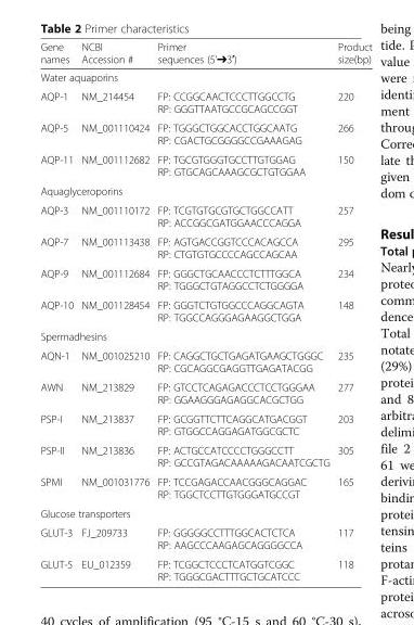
<table><thead><tr><td>Gene names</td><td>NCBI Accession #</td><td>Primer sequences (5’➔3′)</td><td>Product size(bp)</td></tr></thead><tbody><tr><td colspan="4">Water aquaporins</td></tr><tr><td>AQP-1</td><td>NM_214454</td><td>FP: CCGGCAACTCCCTTGGCCTG RP: GGGTTAATGCCGCAGCCGGT</td><td>220</td></tr><tr><td>AQP-5</td><td>NM_001110424</td><td>FP: TGGGCTGGCACCTGGCAATG RP: CGACTGCGGGGCCGAAAGAG</td><td>266</td></tr><tr><td>AQP-11</td><td>NM_001112682</td><td>FP: TGCGTGGGTGCCTTGTGGAG RP: GTGCAGCAAAGCGCTGTGGAA</td><td>150</td></tr><tr><td colspan="4">Aquaglyceroporins</td></tr><tr><td>AQP-3</td><td>NM_001110172</td><td>FP: TCGTGTGCGTGCTGGCCATT RP: ACCGGCGATGGAACCCAGGA</td><td>257</td></tr><tr><td>AQP-7</td><td>NM_001113438</td><td>FP: AGTGACCGGTCCCACAGCCA RP: CTGTGTGCCCCAGCCAGCAA</td><td>295</td></tr><tr><td>AQP-9</td><td>NM_001112684</td><td>FP: GGGCTGCAACCCTCTTTGGCA RP: TGGGCTGTAGGCCTCTGGGGA</td><td>234</td></tr><tr><td>AQP-10</td><td>NM_001128454</td><td>FP: GGGTCTGTGGCCCAGGCAGTA RP: TGGCCAGGGAGAAGGCTGGA</td><td>148</td></tr><tr><td colspan="4">Spermadhesins</td></tr><tr><td>AQN-1</td><td>NM_001025210</td><td>FP: CAGGCTGCTGAGATGAAGCTGGGC RP: CGCAGGCGAGGTTGAGATACGG</td><td>235</td></tr><tr><td>AWN</td><td>NM_213829</td><td>FP: GTCCTCAGAGACCCTCCTGGGAA RP: GGAAGGGAGAGGCACGCTGG</td><td>277</td></tr><tr><td>PSP-I</td><td>NM_213837</td><td>FP: GCGGTTCTTCAGGCATGACGGT RP: GTGGCCAGGAGATGGCGCTC</td><td>203</td></tr><tr><td>PSP-II</td><td>NM_213836</td><td>FP: ACTGCCATCCCCTGGGCCTT RP: GCCGTAGACAAAAAGACAATCGCTG</td><td>305</td></tr><tr><td>SPMI</td><td>NM_001031776</td><td>FP: TCCGAGACCAACGGGCAGGAC RP: TGGCTCCTTGTGGGATGCCGT</td><td>165</td></tr><tr><td colspan="4">Glucose transporters</td></tr><tr><td>GLUT-3</td><td>FJ_209733</td><td>FP: GGGGGCCTTTGGCACTCTCA RP: AAGCCCAAGAGCAGGGGCCA</td><td>117</td></tr><tr><td>GLUT-5</td><td>EU_012359</td><td>FP: TCGGCTCCCTCATGGTCGGC RP: TGGGCGACTTTGCTGCATCCC</td><td>118</td></tr></tbody></table>